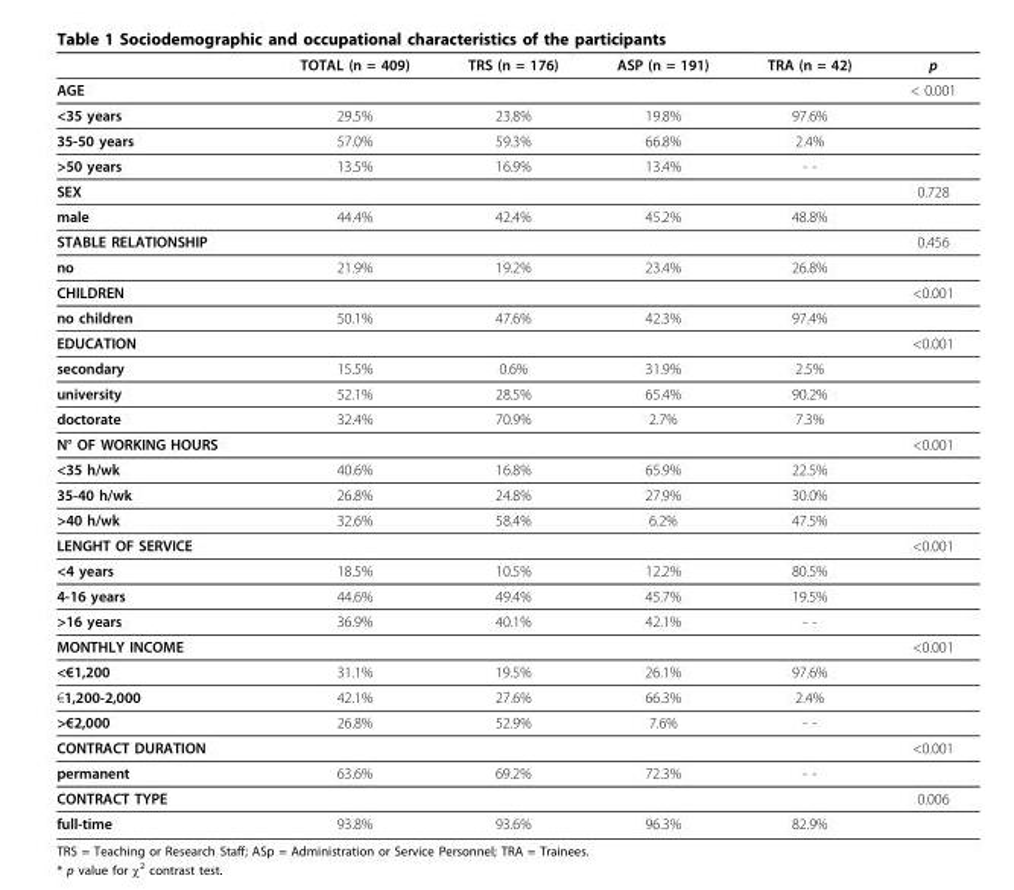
<table><thead><tr><td></td><td>TOTAL (n = 409)</td><td>TRS (n = 176)</td><td>ASP (n = 191)</td><td>TRA (n = 42)</td><td>p</td></tr></thead><tbody><tr><td>AGE</td><td></td><td></td><td></td><td></td><td>&lt; 0.001</td></tr><tr><td>&lt;35 years</td><td>29.5%</td><td>23.8%</td><td>19.8%</td><td>97.6%</td><td></td></tr><tr><td>35-50 years</td><td>57.0%</td><td>59.3%</td><td>66.8%</td><td>2.4%</td><td></td></tr><tr><td>&gt;50 years</td><td>13.5%</td><td>16.9%</td><td>13.4%</td><td>- -</td><td></td></tr><tr><td>SEX</td><td></td><td></td><td></td><td></td><td>0.728</td></tr><tr><td>male</td><td>44.4%</td><td>42.4%</td><td>45.2%</td><td>48.8%</td><td></td></tr><tr><td>STABLE RELATIONSHIP</td><td></td><td></td><td></td><td></td><td>0.456</td></tr><tr><td>no</td><td>21.9%</td><td>19.2%</td><td>23.4%</td><td>26.8%</td><td></td></tr><tr><td>CHILDREN</td><td></td><td></td><td></td><td></td><td>&lt;0.001</td></tr><tr><td>no children</td><td>50.1%</td><td>47.6%</td><td>42.3%</td><td>97.4%</td><td></td></tr><tr><td>EDUCATION</td><td></td><td></td><td></td><td></td><td>&lt;0.001</td></tr><tr><td>secondary</td><td>15.5%</td><td>0.6%</td><td>31.9%</td><td>2.5%</td><td></td></tr><tr><td>university</td><td>52.1%</td><td>28.5%</td><td>65.4%</td><td>90.2%</td><td></td></tr><tr><td>doctorate</td><td>32.4%</td><td>70.9%</td><td>2.7%</td><td>7.3%</td><td></td></tr><tr><td>N° OF WORKING HOURS</td><td></td><td></td><td></td><td></td><td>&lt;0.001</td></tr><tr><td>&lt;35 h/wk</td><td>40.6%</td><td>16.8%</td><td>65.9%</td><td>22.5%</td><td></td></tr><tr><td>35-40 h/wk</td><td>26.8%</td><td>24.8%</td><td>27.9%</td><td>30.0%</td><td></td></tr><tr><td>&gt;40 h/wk</td><td>32.6%</td><td>58.4%</td><td>6.2%</td><td>47.5%</td><td></td></tr><tr><td>LENGHT OF SERVICE</td><td></td><td></td><td></td><td></td><td>&lt;0.001</td></tr><tr><td>&lt;4 years</td><td>18.5%</td><td>10.5%</td><td>12.2%</td><td>80.5%</td><td></td></tr><tr><td>4-16 years</td><td>44.6%</td><td>49.4%</td><td>45.7%</td><td>19.5%</td><td></td></tr><tr><td>&gt;16 years</td><td>36.9%</td><td>40.1%</td><td>42.1%</td><td>- -</td><td></td></tr><tr><td>MONTHLY INCOME</td><td></td><td></td><td></td><td></td><td>&lt;0.001</td></tr><tr><td>&lt;€1,200</td><td>31.1%</td><td>19.5%</td><td>26.1%</td><td>97.6%</td><td></td></tr><tr><td>€1,200-2,000</td><td>42.1%</td><td>27.6%</td><td>66.3%</td><td>2.4%</td><td></td></tr><tr><td>&gt;€2,000</td><td>26.8%</td><td>52.9%</td><td>7.6%</td><td>- -</td><td></td></tr><tr><td>CONTRACT DURATION</td><td></td><td></td><td></td><td></td><td>&lt;0.001</td></tr><tr><td>permanent</td><td>63.6%</td><td>69.2%</td><td>72.3%</td><td>- -</td><td></td></tr><tr><td>CONTRACT TYPE</td><td></td><td></td><td></td><td></td><td>0.006</td></tr><tr><td>full-time</td><td>93.8%</td><td>93.6%</td><td>96.3%</td><td>82.9%</td><td></td></tr></tbody></table>